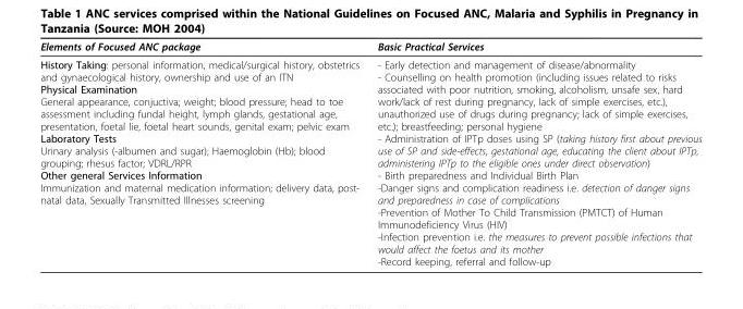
<table><thead><tr><td>Elements of Focused ANC package</td><td>Basic Practical Services</td></tr></thead><tbody><tr><td>History Taking: personal information, medical/surgical history, obstetrics and gynaecological history, ownership and use of an ITN Physical Examination General appearance, conjuctiva; weight; blood pressure; head to toe assessment including fundal height, lymph glands, gestational age, presentation, foetal lie, foetal heart sounds, genital exam; pelvic exam Laboratory Tests Urinary analysis (-albumen and sugar); Haemoglobin (Hb); blood grouping; rhesus factor; VDRL/RPR Other general Services Information Immunization and maternal medication information; delivery data, post- natal data, Sexually Transmitted Illnesses screening</td><td>- Early detection and management of disease/abnormality - Counselling on health promotion (including issues related to risks associated with poor nutrition, smoking, alcoholism, unsafe sex, hard work/lack of rest during pregnancy, lack of simple exercises, etc.), unauthorized use of drugs during pregnancy; lack of simple exercises, etc.); breastfeeding; personal hygiene - Administration of IPTp doses using SP (taking history first about previous use of SP and side-effects, gestational age, educating the client about IPTp, administering IPTp to the eligible ones under direct observation) - Birth preparedness and Individual Birth Plan -Danger signs and complication readiness i.e. detection of danger signs and preparedness in case of complications -Prevention of Mother To Child Transmission (PMTCT) of Human Immunodeficiency Virus (HIV) -Infection prevention i.e. the measures to prevent possible infections that would affect the foetus and its mother -Record keeping, referral and follow-up</td></tr></tbody></table>